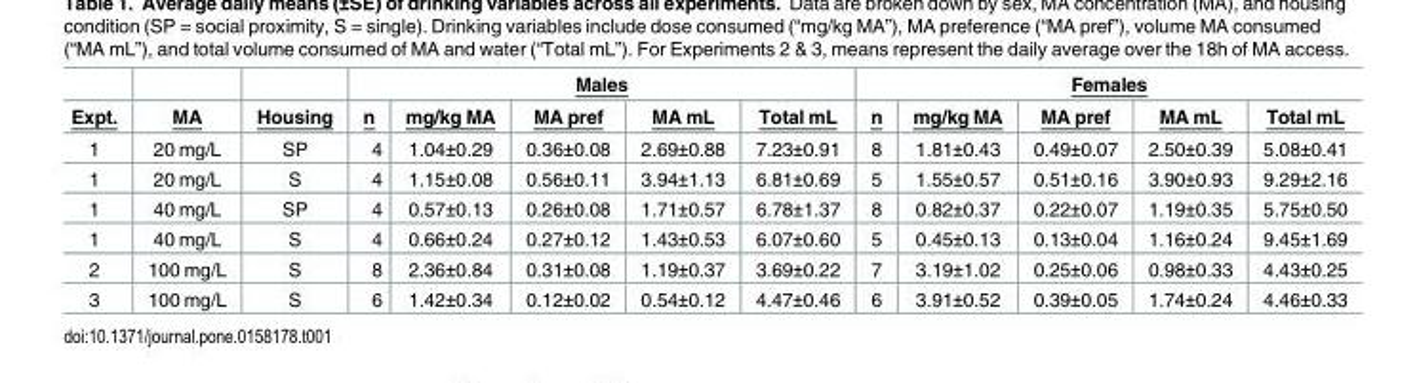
<table><thead><tr><td rowspan="2">Expt.</td><td rowspan="2">MA</td><td rowspan="2">Housing</td><td colspan="5">Males</td><td colspan="5">Females</td></tr><tr><td>n</td><td>mg/kg MA</td><td>MA pref</td><td>MA mL</td><td>Total mL</td><td>n</td><td>mg/kg MA</td><td>MA pref</td><td>MA mL</td><td>Total mL</td></tr></thead><tbody><tr><td>1</td><td>20 mg/L</td><td>SP</td><td>4</td><td>1.04±0.29</td><td>0.36±0.08</td><td>2.69±0.88</td><td>7.23±0.91</td><td>8</td><td>1.81±0.43</td><td>0.49±0.07</td><td>2.50±0.39</td><td>5.08±0.41</td></tr><tr><td>1</td><td>20 mg/L</td><td>S</td><td>4</td><td>1.15±0.08</td><td>0.56±0.11</td><td>3.94±1.13</td><td>6.81±0.69</td><td>5</td><td>1.55±0.57</td><td>0.51±0.16</td><td>3.90±0.93</td><td>9.29±2.16</td></tr><tr><td>1</td><td>40 mg/L</td><td>SP</td><td>4</td><td>0.57±0.13</td><td>0.26±0.08</td><td>1.71±0.57</td><td>6.78±1.37</td><td>8</td><td>0.82±0.37</td><td>0.22±0.07</td><td>1.19±0.35</td><td>5.75±0.50</td></tr><tr><td>1</td><td>40 mg/L</td><td>S</td><td>4</td><td>0.66±0.24</td><td>0.27±0.12</td><td>1.43±0.53</td><td>6.07±0.60</td><td>5</td><td>0.45±0.13</td><td>0.13±0.04</td><td>1.16±0.24</td><td>9.45±1.69</td></tr><tr><td>2</td><td>100 mg/L</td><td>S</td><td>8</td><td>2.36±0.84</td><td>0.31±0.08</td><td>1.19±0.37</td><td>3.69±0.22</td><td>7</td><td>3.19±1.02</td><td>0.25±0.06</td><td>0.98±0.33</td><td>4.43±0.25</td></tr><tr><td>3</td><td>100 mg/L</td><td>S</td><td>6</td><td>1.42±0.34</td><td>0.12±0.02</td><td>0.54±0.12</td><td>4.47±0.46</td><td>6</td><td>3.91±0.52</td><td>0.39±0.05</td><td>1.74±0.24</td><td>4.46±0.33</td></tr></tbody></table>